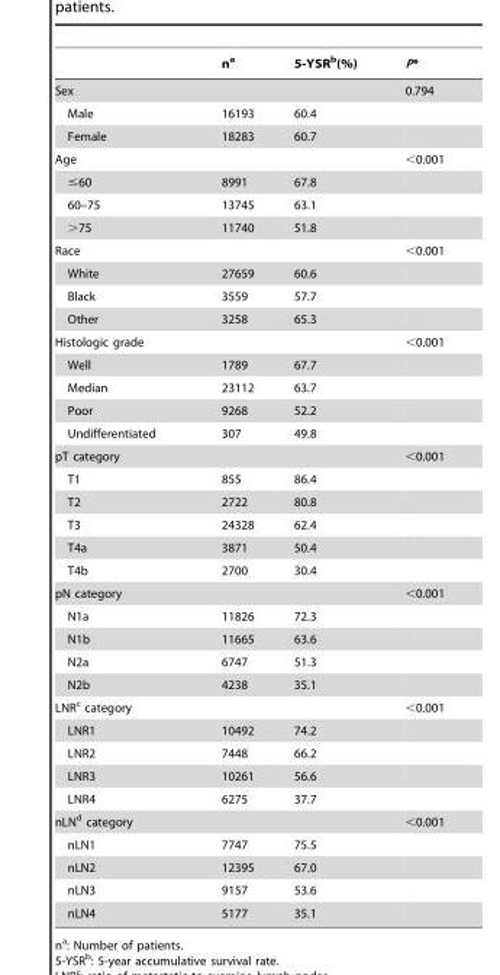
<table><thead><tr><td></td><td>n<sup>a</sup></td><td>5-YSR<sup>b</sup>(%)</td><td>P*</td></tr></thead><tbody><tr><td>Sex</td><td></td><td></td><td>0.794</td></tr><tr><td>Male</td><td>16193</td><td>60.4</td><td></td></tr><tr><td>Female</td><td>18283</td><td>60.7</td><td></td></tr><tr><td>Age</td><td></td><td></td><td>&lt;0.001</td></tr><tr><td>≤60</td><td>8991</td><td>67.8</td><td></td></tr><tr><td>60–75</td><td>13745</td><td>63.1</td><td></td></tr><tr><td>&gt;75</td><td>11740</td><td>51.8</td><td></td></tr><tr><td>Race</td><td></td><td></td><td>&lt;0.001</td></tr><tr><td>White</td><td>27659</td><td>60.6</td><td></td></tr><tr><td>Black</td><td>3559</td><td>57.7</td><td></td></tr><tr><td>Other</td><td>3258</td><td>65.3</td><td></td></tr><tr><td>Histologic grade</td><td></td><td></td><td>&lt;0.001</td></tr><tr><td>Well</td><td>1789</td><td>67.7</td><td></td></tr><tr><td>Median</td><td>23112</td><td>63.7</td><td></td></tr><tr><td>Poor</td><td>9268</td><td>52.2</td><td></td></tr><tr><td>Undifferentiated</td><td>307</td><td>49.8</td><td></td></tr><tr><td>pT category</td><td></td><td></td><td>&lt;0.001</td></tr><tr><td>T1</td><td>855</td><td>86.4</td><td></td></tr><tr><td>T2</td><td>2722</td><td>80.8</td><td></td></tr><tr><td>T3</td><td>24328</td><td>62.4</td><td></td></tr><tr><td>T4a</td><td>3871</td><td>50.4</td><td></td></tr><tr><td>T4b</td><td>2700</td><td>30.4</td><td></td></tr><tr><td>pN category</td><td></td><td></td><td>&lt;0.001</td></tr><tr><td>N1a</td><td>11826</td><td>72.3</td><td></td></tr><tr><td>N1b</td><td>11665</td><td>63.6</td><td></td></tr><tr><td>N2a</td><td>6747</td><td>51.3</td><td></td></tr><tr><td>N2b</td><td>4238</td><td>35.1</td><td></td></tr><tr><td>LNR<sup>c</sup> category</td><td></td><td></td><td>&lt;0.001</td></tr><tr><td>LNR1</td><td>10492</td><td>74.2</td><td></td></tr><tr><td>LNR2</td><td>7448</td><td>66.2</td><td></td></tr><tr><td>LNR3</td><td>10261</td><td>56.6</td><td></td></tr><tr><td>LNR4</td><td>6275</td><td>37.7</td><td></td></tr><tr><td>nLN<sup>d</sup> category</td><td></td><td></td><td>&lt;0.001</td></tr><tr><td>nLN1</td><td>7747</td><td>75.5</td><td></td></tr><tr><td>nLN2</td><td>12395</td><td>67.0</td><td></td></tr><tr><td>nLN3</td><td>9157</td><td>53.6</td><td></td></tr><tr><td>nLN4</td><td>5177</td><td>35.1</td><td></td></tr></tbody></table>